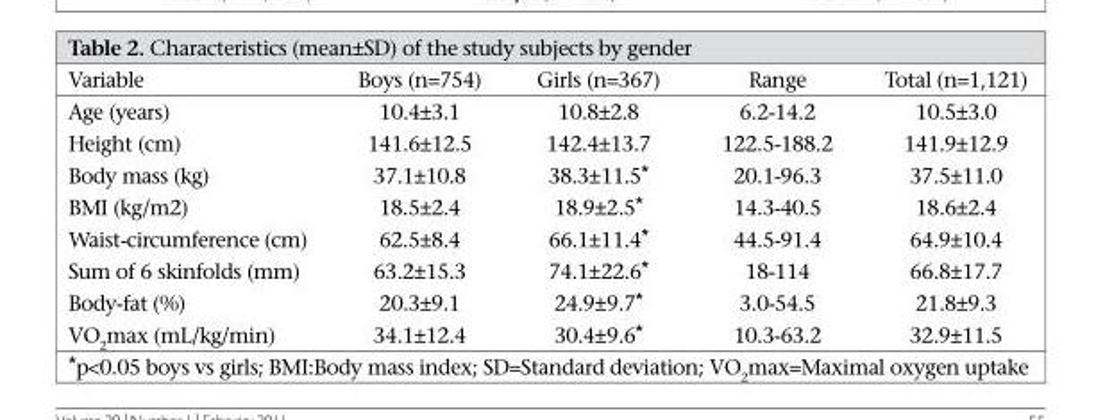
<table><thead><tr><td>Variable</td><td>Boys (n=754)</td><td>Girls (n=367)</td><td>Range</td><td>Total (n=1,121)</td></tr></thead><tbody><tr><td>Age (years)</td><td>10.4±3.1</td><td>10.8±2.8</td><td>6.2-14.2</td><td>10.5±3.0</td></tr><tr><td>Height (cm)</td><td>141.6±12.5</td><td>142.4±13.7</td><td>122.5-188.2</td><td>141.9±12.9</td></tr><tr><td>Body mass (kg)</td><td>37.1±10.8</td><td>38.3±11.5*</td><td>20.1-96.3</td><td>37.5±11.0</td></tr><tr><td>BMI (kg/m2)</td><td>18.5±2.4</td><td>18.9±2.5*</td><td>14.3-40.5</td><td>18.6±2.4</td></tr><tr><td>Waist-circumference (cm)</td><td>62.5±8.4</td><td>66.1±11.4*</td><td>44.5-91.4</td><td>64.9±10.4</td></tr><tr><td>Sum of 6 skinfolds (mm)</td><td>63.2±15.3</td><td>74.1±22.6*</td><td>18-114</td><td>66.8±17.7</td></tr><tr><td>Body-fat (%)</td><td>20.3±9.1</td><td>24.9±9.7*</td><td>3.0-54.5</td><td>21.8±9.3</td></tr><tr><td>VO<sub>2</sub>max (mL/kg/min)</td><td>34.1±12.4</td><td>30.4±9.6*</td><td>10.3-63.2</td><td>32.9±11.5</td></tr></tbody></table>